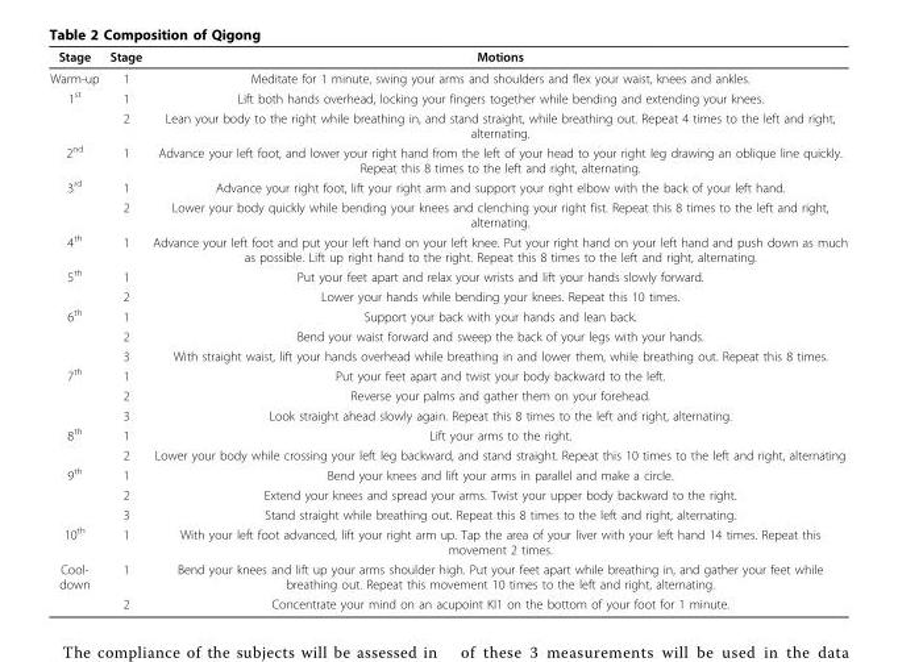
<table><thead><tr><td>Stage</td><td>Stage</td><td>Motions</td></tr></thead><tbody><tr><td>Warm-up</td><td>1</td><td>Meditate for 1 minute, swing your arms and shoulders and flex your waist, knees and ankles.</td></tr><tr><td rowspan="2">1<sup>st</sup></td><td>1</td><td>Lift both hands overhead, locking your fingers together while bending and extending your knees.</td></tr><tr><td>2</td><td>Lean your body to the right while breathing in, and stand straight, while breathing out. Repeat 4 times to the left and right, alternating.</td></tr><tr><td>2<sup>nd</sup></td><td>1</td><td>Advance your left foot, and lower your right hand from the left of your head to your right leg drawing an oblique line quickly. Repeat this 8 times to the left and right, alternating.</td></tr><tr><td rowspan="2">3<sup>rd</sup></td><td>1</td><td>Advance your right foot, lift your right arm and support your right elbow with the back of your left hand.</td></tr><tr><td>2</td><td>Lower your body quickly while bending your knees and clenching your right fist. Repeat this 8 times to the left and right, alternating.</td></tr><tr><td>4<sup>th</sup></td><td>1</td><td>Advance your left foot and put your left hand on your left knee. Put your right hand on your left hand and push down as much as possible. Lift up right hand to the right. Repeat this 8 times to the left and right, alternating.</td></tr><tr><td rowspan="2">5<sup>th</sup></td><td>1</td><td>Put your feet apart and relax your wrists and lift your hands slowly forward.</td></tr><tr><td>2</td><td>Lower your hands while bending your knees. Repeat this 10 times.</td></tr><tr><td rowspan="3">6<sup>th</sup></td><td>1</td><td>Support your back with your hands and lean back.</td></tr><tr><td>2</td><td>Bend your waist forward and sweep the back of your legs with your hands.</td></tr><tr><td>3</td><td>With straight waist, lift your hands overhead while breathing in and lower them, while breathing out. Repeat this 8 times.</td></tr><tr><td rowspan="3">7<sup>th</sup></td><td>1</td><td>Put your feet apart and twist your body backward to the left.</td></tr><tr><td>2</td><td>Reverse your palms and gather them on your forehead.</td></tr><tr><td>3</td><td>Look straight ahead slowly again. Repeat this 8 times to the left and right, alternating.</td></tr><tr><td rowspan="2">8<sup>th</sup></td><td>1</td><td>Lift your arms to the right.</td></tr><tr><td>2</td><td>Lower your body while crossing your left leg backward, and stand straight. Repeat this 10 times to the left and right, alternating</td></tr><tr><td rowspan="3">9<sup>th</sup></td><td>1</td><td>Bend your knees and lift your arms in parallel and make a circle.</td></tr><tr><td>2</td><td>Extend your knees and spread your arms. Twist your upper body backward to the right.</td></tr><tr><td>3</td><td>Stand straight while breathing out. Repeat this 8 times to the left and right, alternating.</td></tr><tr><td>10<sup>th</sup></td><td>1</td><td>With your left foot advanced, lift your right arm up. Tap the area of your liver with your left hand 14 times. Repeat this movement 2 times.</td></tr><tr><td rowspan="2">Cool- down</td><td>1</td><td>Bend your knees and lift up your arms shoulder high. Put your feet apart while breathing in, and gather your feet while breathing out. Repeat this movement 10 times to the left and right, alternating.</td></tr><tr><td>2</td><td>Concentrate your mind on an acupoint KI1 on the bottom of your foot for 1 minute.</td></tr></tbody></table>